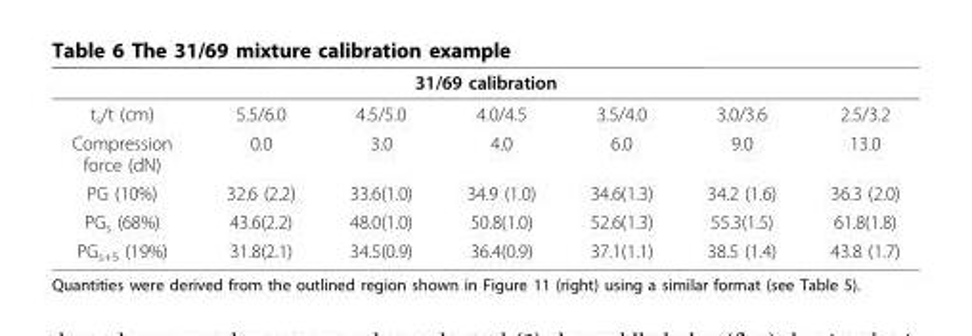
<table><thead><tr><td colspan="7">31/69 calibration</td></tr><tr><td>t<sub>s</sub>/t (cm)</td><td>5.5/6.0</td><td>4.5/5.0</td><td>4.0/4.5</td><td>3.5/4.0</td><td>3.0/3.6</td><td>2.5/3.2</td></tr></thead><tbody><tr><td>Compression force (dN)</td><td>0.0</td><td>3.0</td><td>4.0</td><td>6.0</td><td>9.0</td><td>13.0</td></tr><tr><td>PG (10%)</td><td>32.6 (2.2)</td><td>33.6(1.0)</td><td>34.9 (1.0)</td><td>34.6(1.3)</td><td>34.2 (1.6)</td><td>36.3 (2.0)</td></tr><tr><td>PG<sub>s</sub> (68%)</td><td>43.6(2.2)</td><td>48.0(1.0)</td><td>50.8(1.0)</td><td>52.6(1.3)</td><td>55.3(1.5)</td><td>61.8(1.8)</td></tr><tr><td>PG<sub>s+5</sub> (19%)</td><td>31.8(2.1)</td><td>34.5(0.9)</td><td>36.4(0.9)</td><td>37.1(1.1)</td><td>38.5 (1.4)</td><td>43.8 (1.7)</td></tr></tbody></table>